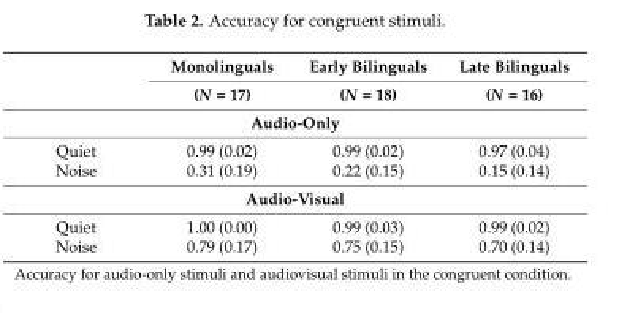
<table><thead><tr><td rowspan="2"></td><td rowspan="2">Monolinguals (N = 17)</td><td rowspan="2">Early Bilinguals (N = 18)</td><td rowspan="2">Late Bilinguals (N = 16)</td></tr><tr></tr></thead><tbody><tr><td colspan="4">Audio-Only</td></tr><tr><td>Quiet</td><td>0.99 (0.02)</td><td>0.99 (0.02)</td><td>0.97 (0.04)</td></tr><tr><td>Noise</td><td>0.31 (0.19)</td><td>0.22 (0.15)</td><td>0.15 (0.14)</td></tr><tr><td colspan="4">Audio-Visual</td></tr><tr><td>Quiet</td><td>1.00 (0.00)</td><td>0.99 (0.03)</td><td>0.99 (0.02)</td></tr><tr><td>Noise</td><td>0.79 (0.17)</td><td>0.75 (0.15)</td><td>0.70 (0.14)</td></tr></tbody></table>